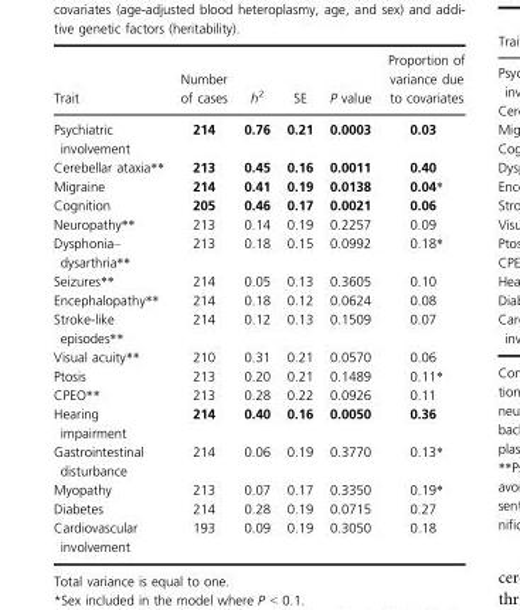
<table><thead><tr><td>Trait</td><td>Number of cases</td><td>h<sup>2</sup></td><td>SE</td><td>P value</td><td>Proportion of variance due to covariates</td></tr></thead><tbody><tr><td>Psychiatric involvement</td><td>214</td><td>0.76</td><td>0.21</td><td>0.0003</td><td>0.03</td></tr><tr><td>Cerebellar ataxia**</td><td>213</td><td>0.45</td><td>0.16</td><td>0.0011</td><td>0.40</td></tr><tr><td>Migraine</td><td>214</td><td>0.41</td><td>0.19</td><td>0.0138</td><td>0.04*</td></tr><tr><td>Cognition</td><td>205</td><td>0.46</td><td>0.17</td><td>0.0021</td><td>0.06</td></tr><tr><td>Neuropathy**</td><td>213</td><td>0.14</td><td>0.19</td><td>0.2257</td><td>0.09</td></tr><tr><td>Dysphonia– dysarthria**</td><td>213</td><td>0.18</td><td>0.15</td><td>0.0992</td><td>0.18*</td></tr><tr><td>Seizures**</td><td>214</td><td>0.05</td><td>0.13</td><td>0.3605</td><td>0.10</td></tr><tr><td>Encephalopathy**</td><td>214</td><td>0.18</td><td>0.12</td><td>0.0624</td><td>0.08</td></tr><tr><td>Stroke-like episodes**</td><td>214</td><td>0.12</td><td>0.13</td><td>0.1509</td><td>0.07</td></tr><tr><td>Visual acuity**</td><td>210</td><td>0.31</td><td>0.21</td><td>0.0570</td><td>0.06</td></tr><tr><td>Ptosis</td><td>213</td><td>0.20</td><td>0.21</td><td>0.1489</td><td>0.11*</td></tr><tr><td>CPEO**</td><td>213</td><td>0.28</td><td>0.22</td><td>0.0926</td><td>0.11</td></tr><tr><td>Hearing impairment</td><td>214</td><td>0.40</td><td>0.16</td><td>0.0050</td><td>0.36</td></tr><tr><td>Gastrointestinal disturbance</td><td>214</td><td>0.06</td><td>0.19</td><td>0.3770</td><td>0.13*</td></tr><tr><td>Myopathy</td><td>213</td><td>0.07</td><td>0.17</td><td>0.3350</td><td>0.19*</td></tr><tr><td>Diabetes</td><td>214</td><td>0.28</td><td>0.19</td><td>0.0715</td><td>0.27</td></tr><tr><td>Cardiovascular involvement</td><td>193</td><td>0.09</td><td>0.19</td><td>0.3050</td><td>0.18</td></tr></tbody></table>